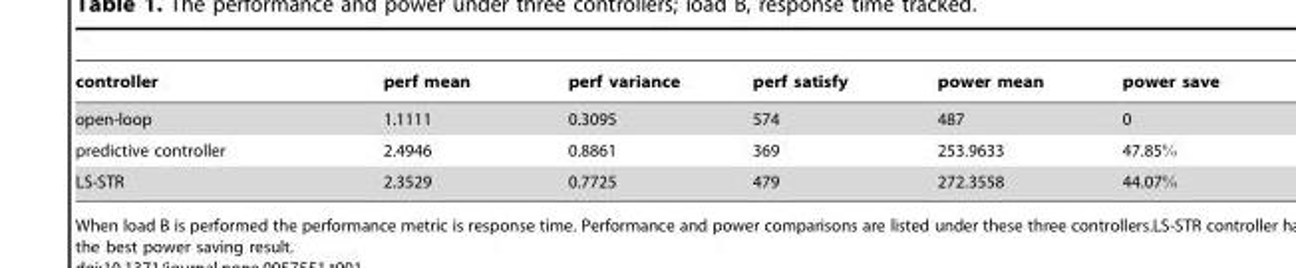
<table><thead><tr><td>controller</td><td>perf mean</td><td>perf variance</td><td>perf satisfy</td><td>power mean</td><td>power save</td></tr></thead><tbody><tr><td>open-loop</td><td>1.1111</td><td>0.3095</td><td>574</td><td>487</td><td>0</td></tr><tr><td>predictive controller</td><td>2.4946</td><td>0.8861</td><td>369</td><td>253.9633</td><td>47.85%</td></tr><tr><td>LS-STR</td><td>2.3529</td><td>0.7725</td><td>479</td><td>272.3558</td><td>44.07%</td></tr></tbody></table>